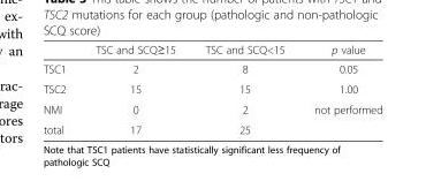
<table><thead><tr><td></td><td>TSC and SCQ≥15</td><td>TSC and SCQ&lt;15</td><td>p value</td></tr></thead><tbody><tr><td>TSC1</td><td>2</td><td>8</td><td>0.05</td></tr><tr><td>TSC2</td><td>15</td><td>15</td><td>1.00</td></tr><tr><td>NMI</td><td>0</td><td>2</td><td>not performed</td></tr><tr><td>total</td><td>17</td><td>25</td><td></td></tr></tbody></table>